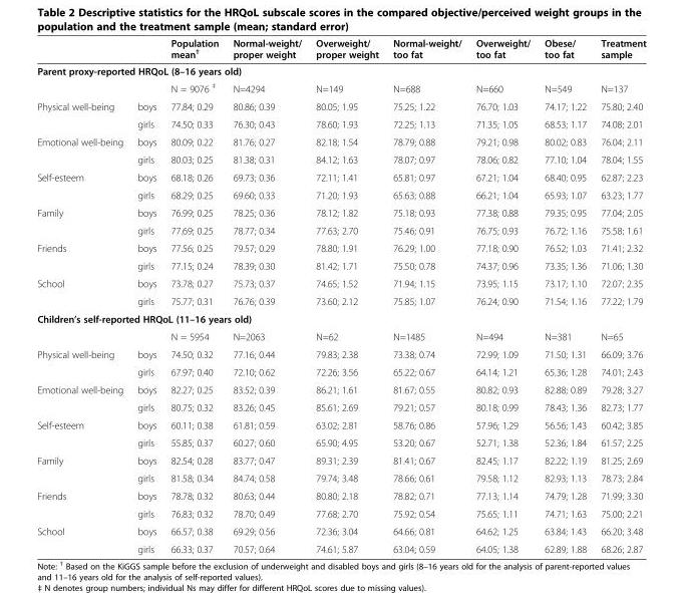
<table><thead><tr><td></td><td></td><td>Population mean<sup>†</sup></td><td>Normal-weight/ proper weight</td><td>Overweight/ proper weight</td><td>Normal-weight/ too fat</td><td>Overweight/ too fat</td><td>Obese/ too fat</td><td>Treatment sample</td></tr></thead><tbody><tr><td colspan="9">Parent proxy-reported HRQoL (8–16 years old)</td></tr><tr><td colspan="2"></td><td>N = 9076 <sup>‡</sup></td><td>N=4294</td><td>N=149</td><td>N=688</td><td>N=660</td><td>N=549</td><td>N=137</td></tr><tr><td rowspan="2">Physical well-being</td><td>boys</td><td>77.84; 0.29</td><td>80.86; 0.39</td><td>80.05; 1.95</td><td>75.25; 1.22</td><td>76.70; 1.03</td><td>74.17; 1.22</td><td>75.80; 2.40</td></tr><tr><td>girls</td><td>74.50; 0.33</td><td>76.30; 0.43</td><td>78.60; 1.93</td><td>72.25; 1.13</td><td>71.35; 1.05</td><td>68.53; 1.17</td><td>74.08; 2.01</td></tr><tr><td rowspan="2">Emotional well-being</td><td>boys</td><td>80.09; 0.22</td><td>81.76; 0.27</td><td>82.18; 1.54</td><td>78.79; 0.88</td><td>79.21; 0.98</td><td>80.02; 0.83</td><td>76.04; 2.11</td></tr><tr><td>girls</td><td>80.03; 0.25</td><td>81.38; 0.31</td><td>84.12; 1.63</td><td>78.07; 0.97</td><td>78.06; 0.82</td><td>77.10; 1.04</td><td>78.04; 1.55</td></tr><tr><td rowspan="2">Self-esteem</td><td>boys</td><td>68.18; 0.26</td><td>69.73; 0.36</td><td>72.11; 1.41</td><td>65.81; 0.97</td><td>67.21; 1.04</td><td>68.40; 0.95</td><td>62.87; 2.23</td></tr><tr><td>girls</td><td>68.29; 0.25</td><td>69.60; 0.33</td><td>71.20; 1.93</td><td>65.63; 0.88</td><td>66.21; 1.04</td><td>65.93; 1.07</td><td>63.23; 1.77</td></tr><tr><td rowspan="2">Family</td><td>boys</td><td>76.99; 0.25</td><td>78.25; 0.36</td><td>78.12; 1.82</td><td>75.18; 0.93</td><td>77.38; 0.88</td><td>79.35; 0.95</td><td>77.04; 2.05</td></tr><tr><td>girls</td><td>77.69; 0.25</td><td>78.77; 0.34</td><td>77.63; 2.70</td><td>75.46; 0.91</td><td>76.75; 0.93</td><td>76.72; 1.16</td><td>75.58; 1.61</td></tr><tr><td rowspan="2">Friends</td><td>boys</td><td>77.56; 0.25</td><td>79.57; 0.29</td><td>78.80; 1.91</td><td>76.29; 1.00</td><td>77.18; 0.90</td><td>76.52; 1.03</td><td>71.41; 2.32</td></tr><tr><td>girls</td><td>77.15; 0.24</td><td>78.39; 0.30</td><td>81.42; 1.71</td><td>75.50; 0.78</td><td>74.37; 0.96</td><td>73.35; 1.36</td><td>71.06; 1.30</td></tr><tr><td rowspan="2">School</td><td>boys</td><td>73.78; 0.27</td><td>75.73; 0.37</td><td>74.65; 1.52</td><td>71.94; 1.15</td><td>73.95; 1.15</td><td>73.17; 1.10</td><td>72.07; 2.35</td></tr><tr><td>girls</td><td>75.77; 0.31</td><td>76.76; 0.39</td><td>73.60; 2.12</td><td>75.85; 1.07</td><td>76.24; 0.90</td><td>71.54; 1.16</td><td>77.22; 1.79</td></tr><tr><td colspan="9">Children’s self-reported HRQoL (11–16 years old)</td></tr><tr><td colspan="2"></td><td>N = 5954</td><td>N=2063</td><td>N=62</td><td>N=1485</td><td>N=494</td><td>N=381</td><td>N=65</td></tr><tr><td rowspan="2">Physical well-being</td><td>boys</td><td>74.50; 0.32</td><td>77.16; 0.44</td><td>79.83; 2.38</td><td>73.38; 0.74</td><td>72.99; 1.09</td><td>71.50; 1.31</td><td>66.09; 3.76</td></tr><tr><td>girls</td><td>67.97; 0.40</td><td>72.10; 0.62</td><td>72.26; 3.56</td><td>65.22; 0.67</td><td>64.14; 1.21</td><td>65.36; 1.28</td><td>74.01; 2.43</td></tr><tr><td rowspan="2">Emotional well-being</td><td>boys</td><td>82.27; 0.25</td><td>83.52; 0.39</td><td>86.21; 1.61</td><td>81.67; 0.55</td><td>80.82; 0.93</td><td>82.88; 0.89</td><td>79.28; 3.27</td></tr><tr><td>girls</td><td>80.75; 0.32</td><td>83.26; 0.45</td><td>85.61; 2.69</td><td>79.21; 0.57</td><td>80.18; 0.99</td><td>78.43; 1.36</td><td>82.73; 1.77</td></tr><tr><td rowspan="2">Self-esteem</td><td>boys</td><td>60.11; 0.38</td><td>61.81; 0.59</td><td>63.02; 2.81</td><td>58.76; 0.86</td><td>57.96; 1.29</td><td>56.56; 1.43</td><td>60.42; 3.85</td></tr><tr><td>girls</td><td>55.85; 0.37</td><td>60.27; 0.60</td><td>65.90; 4.95</td><td>53.20; 0.67</td><td>52.71; 1.38</td><td>52.36; 1.84</td><td>61.57; 2.25</td></tr><tr><td rowspan="2">Family</td><td>boys</td><td>82.54; 0.28</td><td>83.77; 0.47</td><td>89.31; 2.39</td><td>81.41; 0.67</td><td>82.45; 1.17</td><td>82.22; 1.19</td><td>81.25; 2.69</td></tr><tr><td>girls</td><td>81.58; 0.34</td><td>84.74; 0.58</td><td>79.74; 3.48</td><td>78.66; 0.61</td><td>79.58; 1.12</td><td>82.93; 1.13</td><td>78.73; 2.84</td></tr><tr><td rowspan="2">Friends</td><td>boys</td><td>78.78; 0.32</td><td>80.63; 0.44</td><td>80.80; 2.18</td><td>78.82; 0.71</td><td>77.13; 1.14</td><td>74.79; 1.28</td><td>71.99; 3.30</td></tr><tr><td>girls</td><td>76.83; 0.32</td><td>78.70; 0.49</td><td>77.68; 2.70</td><td>75.92; 0.54</td><td>75.65; 1.11</td><td>74.71; 1.63</td><td>75.00; 2.21</td></tr><tr><td rowspan="2">School</td><td>boys</td><td>66.57; 0.38</td><td>69.29; 0.56</td><td>72.36; 3.04</td><td>64.66; 0.81</td><td>64.62; 1.25</td><td>63.84; 1.43</td><td>66.20; 3.48</td></tr><tr><td>girls</td><td>66.33; 0.37</td><td>70.57; 0.64</td><td>74.61; 5.87</td><td>63.04; 0.59</td><td>64.05; 1.38</td><td>62.89; 1.88</td><td>68.26; 2.87</td></tr></tbody></table>